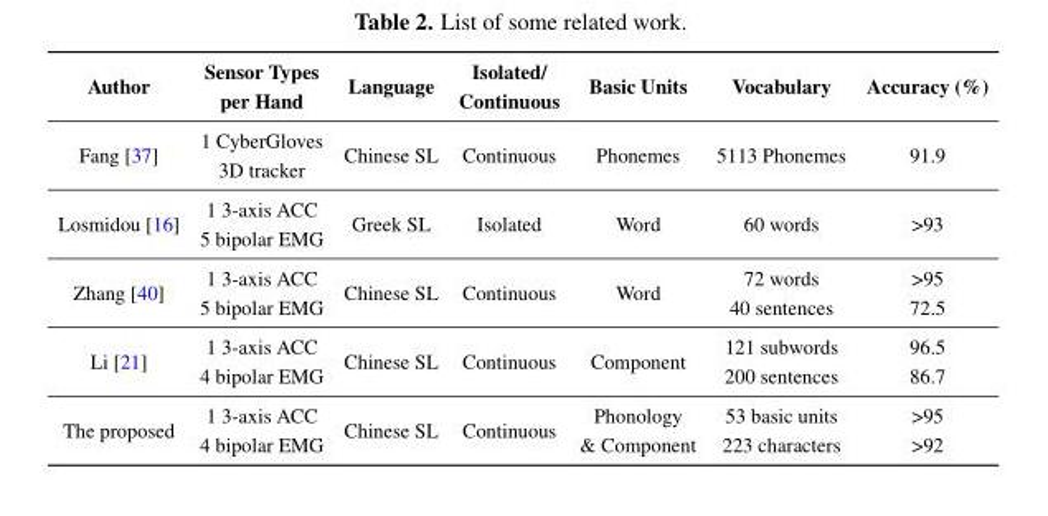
<table><thead><tr><td rowspan="2">Author</td><td rowspan="2">Sensor Types per Hand</td><td rowspan="2">Language</td><td rowspan="2">Isolated/ Continuous</td><td rowspan="2">Basic Units</td><td rowspan="2">Vocabulary</td><td rowspan="2">Accuracy (%)</td></tr><tr></tr></thead><tbody><tr><td rowspan="2">Fang [37]</td><td>1 CyberGloves</td><td rowspan="2">Chinese SL</td><td rowspan="2">Continuous</td><td rowspan="2">Phonemes</td><td rowspan="2">5113 Phonemes</td><td rowspan="2">91.9</td></tr><tr><td>3D tracker</td></tr><tr><td rowspan="2">Losmidou [16]</td><td>1 3-axis ACC</td><td rowspan="2">Greek SL</td><td rowspan="2">Isolated</td><td rowspan="2">Word</td><td rowspan="2">60 words</td><td rowspan="2">&gt;93</td></tr><tr><td>5 bipolar EMG</td></tr><tr><td rowspan="2">Zhang [40]</td><td>1 3-axis ACC</td><td rowspan="2">Chinese SL</td><td rowspan="2">Continuous</td><td rowspan="2">Word</td><td>72 words</td><td>&gt;95</td></tr><tr><td>5 bipolar EMG</td><td>40 sentences</td><td>72.5</td></tr><tr><td rowspan="2">Li [21]</td><td>1 3-axis ACC</td><td rowspan="2">Chinese SL</td><td rowspan="2">Continuous</td><td rowspan="2">Component</td><td>121 subwords</td><td>96.5</td></tr><tr><td>4 bipolar EMG</td><td>200 sentences</td><td>86.7</td></tr><tr><td rowspan="2">The proposed</td><td>1 3-axis ACC</td><td rowspan="2">Chinese SL</td><td rowspan="2">Continuous</td><td>Phonology</td><td>53 basic units</td><td>&gt;95</td></tr><tr><td>4 bipolar EMG</td><td>&amp; Component</td><td>223 characters</td><td>&gt;92</td></tr></tbody></table>